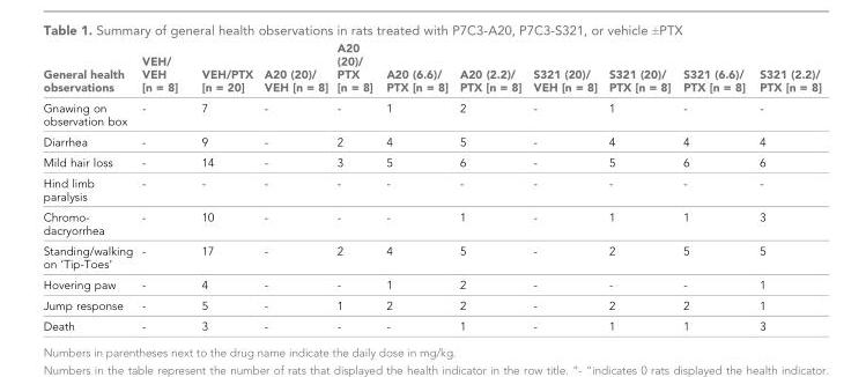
<table><thead><tr><td>General health observations</td><td>VEH/ VEH [n = 8]</td><td>VEH/PTX [n = 20]</td><td>A20 (20)/ VEH [n = 8]</td><td>A20 (20)/ PTX [n = 8]</td><td>A20 (6.6)/ PTX [n = 8]</td><td>A20 (2.2)/ PTX [n = 8]</td><td>S321 (20)/ VEH [n = 8]</td><td>S321 (20)/ PTX [n = 8]</td><td>S321 (6.6)/ PTX [n = 8]</td><td>S321 (2.2)/ PTX [n = 8]</td></tr></thead><tbody><tr><td>Gnawing on observation box</td><td>-</td><td>7</td><td>-</td><td>-</td><td>1</td><td>2</td><td>-</td><td>1</td><td>-</td><td>-</td></tr><tr><td>Diarrhea</td><td>-</td><td>9</td><td>-</td><td>2</td><td>4</td><td>5</td><td>-</td><td>4</td><td>4</td><td>4</td></tr><tr><td>Mild hair loss</td><td>-</td><td>14</td><td>-</td><td>3</td><td>5</td><td>6</td><td>-</td><td>5</td><td>6</td><td>6</td></tr><tr><td>Hind limb paralysis</td><td>-</td><td>-</td><td>-</td><td>-</td><td>-</td><td>-</td><td>-</td><td>-</td><td>-</td><td>-</td></tr><tr><td>Chromo- dacryorrhea</td><td>-</td><td>10</td><td>-</td><td>-</td><td>-</td><td>1</td><td>-</td><td>1</td><td>1</td><td>3</td></tr><tr><td>Standing/walking on ‘Tip-Toes’</td><td>-</td><td>17</td><td>-</td><td>2</td><td>4</td><td>5</td><td>-</td><td>2</td><td>5</td><td>5</td></tr><tr><td>Hovering paw</td><td>-</td><td>4</td><td>-</td><td>-</td><td>1</td><td>2</td><td>-</td><td>-</td><td>-</td><td>1</td></tr><tr><td>Jump response</td><td>-</td><td>5</td><td>-</td><td>1</td><td>2</td><td>2</td><td>-</td><td>2</td><td>2</td><td>1</td></tr><tr><td>Death</td><td>-</td><td>3</td><td>-</td><td>-</td><td>-</td><td>1</td><td>-</td><td>1</td><td>1</td><td>3</td></tr></tbody></table>